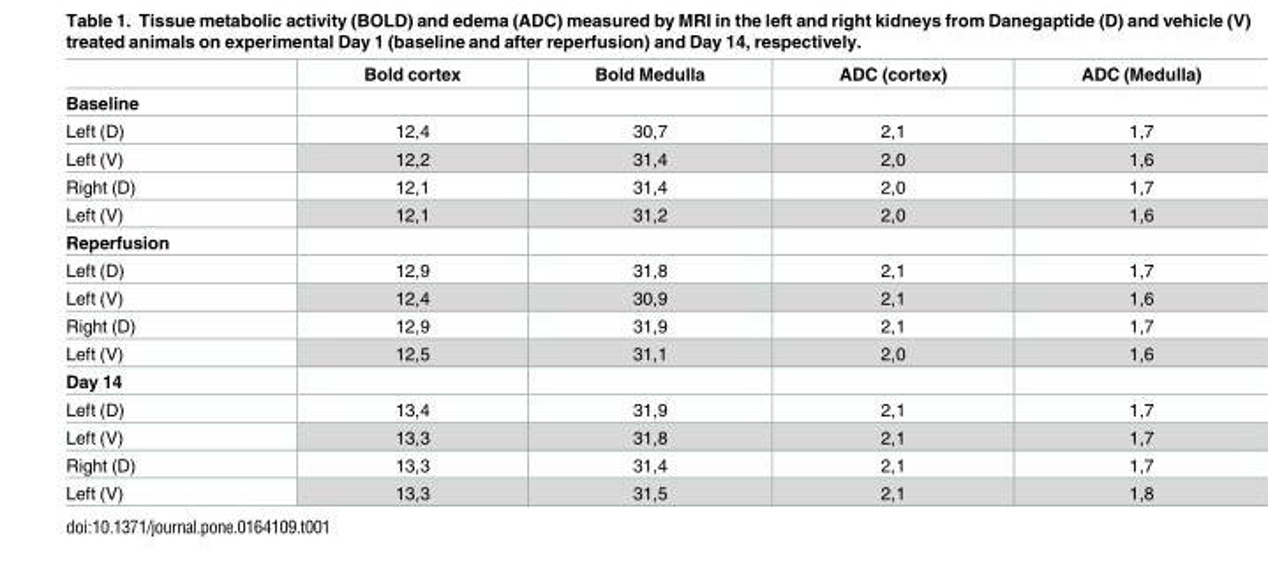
<table><thead><tr><td></td><td>Bold cortex</td><td>Bold Medulla</td><td>ADC (cortex)</td><td>ADC (Medulla)</td></tr></thead><tbody><tr><td colspan="5">Baseline</td></tr><tr><td>Left (D)</td><td>12,4</td><td>30,7</td><td>2,1</td><td>1,7</td></tr><tr><td>Left (V)</td><td>12,2</td><td>31,4</td><td>2,0</td><td>1,6</td></tr><tr><td>Right (D)</td><td>12,1</td><td>31,4</td><td>2,0</td><td>1,7</td></tr><tr><td>Left (V)</td><td>12,1</td><td>31,2</td><td>2,0</td><td>1,6</td></tr><tr><td colspan="5">Reperfusion</td></tr><tr><td>Left (D)</td><td>12,9</td><td>31,8</td><td>2,1</td><td>1,7</td></tr><tr><td>Left (V)</td><td>12,4</td><td>30,9</td><td>2,1</td><td>1,6</td></tr><tr><td>Right (D)</td><td>12,9</td><td>31,9</td><td>2,1</td><td>1,7</td></tr><tr><td>Left (V)</td><td>12,5</td><td>31,1</td><td>2,0</td><td>1,6</td></tr><tr><td colspan="5">Day 14</td></tr><tr><td>Left (D)</td><td>13,4</td><td>31,9</td><td>2,1</td><td>1,7</td></tr><tr><td>Left (V)</td><td>13,3</td><td>31,8</td><td>2,1</td><td>1,7</td></tr><tr><td>Right (D)</td><td>13,3</td><td>31,4</td><td>2,1</td><td>1,7</td></tr><tr><td>Left (V)</td><td>13,3</td><td>31,5</td><td>2,1</td><td>1,8</td></tr></tbody></table>